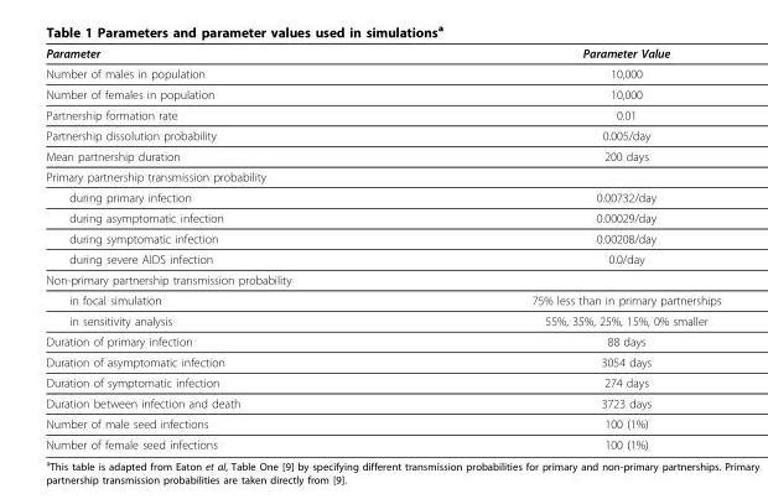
<table><thead><tr><td>Parameter</td><td>Parameter Value</td></tr></thead><tbody><tr><td>Number of males in population</td><td>10,000</td></tr><tr><td>Number of females in population</td><td>10,000</td></tr><tr><td>Partnership formation rate</td><td>0.01</td></tr><tr><td>Partnership dissolution probability</td><td>0.005/day</td></tr><tr><td>Mean partnership duration</td><td>200 days</td></tr><tr><td colspan="2">Primary partnership transmission probability</td></tr><tr><td>during primary infection</td><td>0.00732/day</td></tr><tr><td>during asymptomatic infection</td><td>0.00029/day</td></tr><tr><td>during symptomatic infection</td><td>0.00208/day</td></tr><tr><td>during severe AIDS infection</td><td>0.0/day</td></tr><tr><td colspan="2">Non-primary partnership transmission probability</td></tr><tr><td>in focal simulation</td><td>75% less than in primary partnerships</td></tr><tr><td>in sensitivity analysis</td><td>55%, 35%, 25%, 15%, 0% smaller</td></tr><tr><td>Duration of primary infection</td><td>88 days</td></tr><tr><td>Duration of asymptomatic infection</td><td>3054 days</td></tr><tr><td>Duration of symptomatic infection</td><td>274 days</td></tr><tr><td>Duration between infection and death</td><td>3723 days</td></tr><tr><td>Number of male seed infections</td><td>100 (1%)</td></tr><tr><td>Number of female seed infections</td><td>100 (1%)</td></tr></tbody></table>